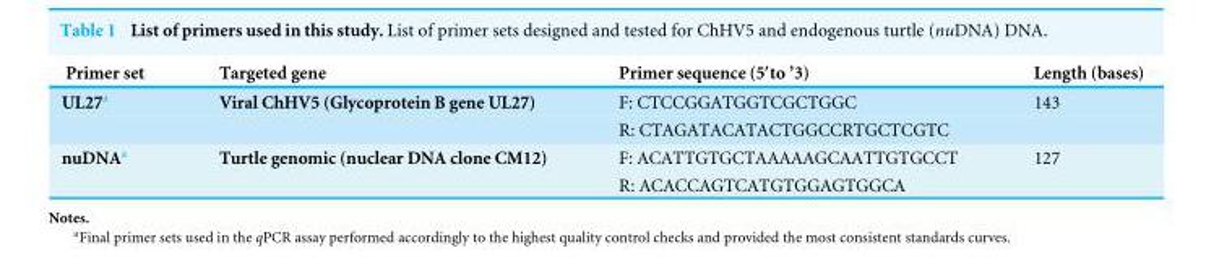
<table><thead><tr><td>Primer set</td><td>Targeted gene</td><td>Primer sequence (5′to ’3)</td><td>Length (bases)</td></tr></thead><tbody><tr><td rowspan="2">UL27<sup>a</sup></td><td>Viral ChHV5 (Glycoprotein B gene UL27)</td><td>F: CTCCGGATGGTCGCTGGC</td><td>143</td></tr><tr><td></td><td>R: CTAGATACATACTGGCCRTGCTCGTC</td><td></td></tr><tr><td rowspan="2">nuDNA<sup>a</sup></td><td>Turtle genomic (nuclear DNA clone CM12)</td><td>F: ACATTGTGCTAAAAAGCAATTGTGCCT</td><td>127</td></tr><tr><td></td><td>R: ACACCAGTCATGTGGAGTGGCA</td><td></td></tr></tbody></table>